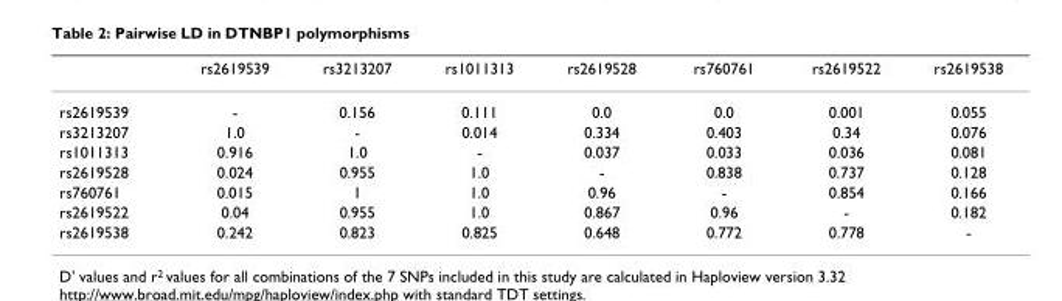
<table><thead><tr><td></td><td>rs2619539</td><td>rs3213207</td><td>rs1011313</td><td>rs2619528</td><td>rs760761</td><td>rs2619522</td><td>rs2619538</td></tr></thead><tbody><tr><td>rs2619539</td><td>-</td><td>0.156</td><td>0.111</td><td>0.0</td><td>0.0</td><td>0.001</td><td>0.055</td></tr><tr><td>rs3213207</td><td>1.0</td><td>-</td><td>0.014</td><td>0.334</td><td>0.403</td><td>0.34</td><td>0.076</td></tr><tr><td>rs1011313</td><td>0.916</td><td>1.0</td><td>-</td><td>0.037</td><td>0.033</td><td>0.036</td><td>0.081</td></tr><tr><td>rs2619528</td><td>0.024</td><td>0.955</td><td>1.0</td><td>-</td><td>0.838</td><td>0.737</td><td>0.128</td></tr><tr><td>rs760761</td><td>0.015</td><td>1</td><td>1.0</td><td>0.96</td><td>-</td><td>0.854</td><td>0.166</td></tr><tr><td>rs2619522</td><td>0.04</td><td>0.955</td><td>1.0</td><td>0.867</td><td>0.96</td><td>-</td><td>0.182</td></tr><tr><td>rs2619538</td><td>0.242</td><td>0.823</td><td>0.825</td><td>0.648</td><td>0.772</td><td>0.778</td><td>-</td></tr></tbody></table>